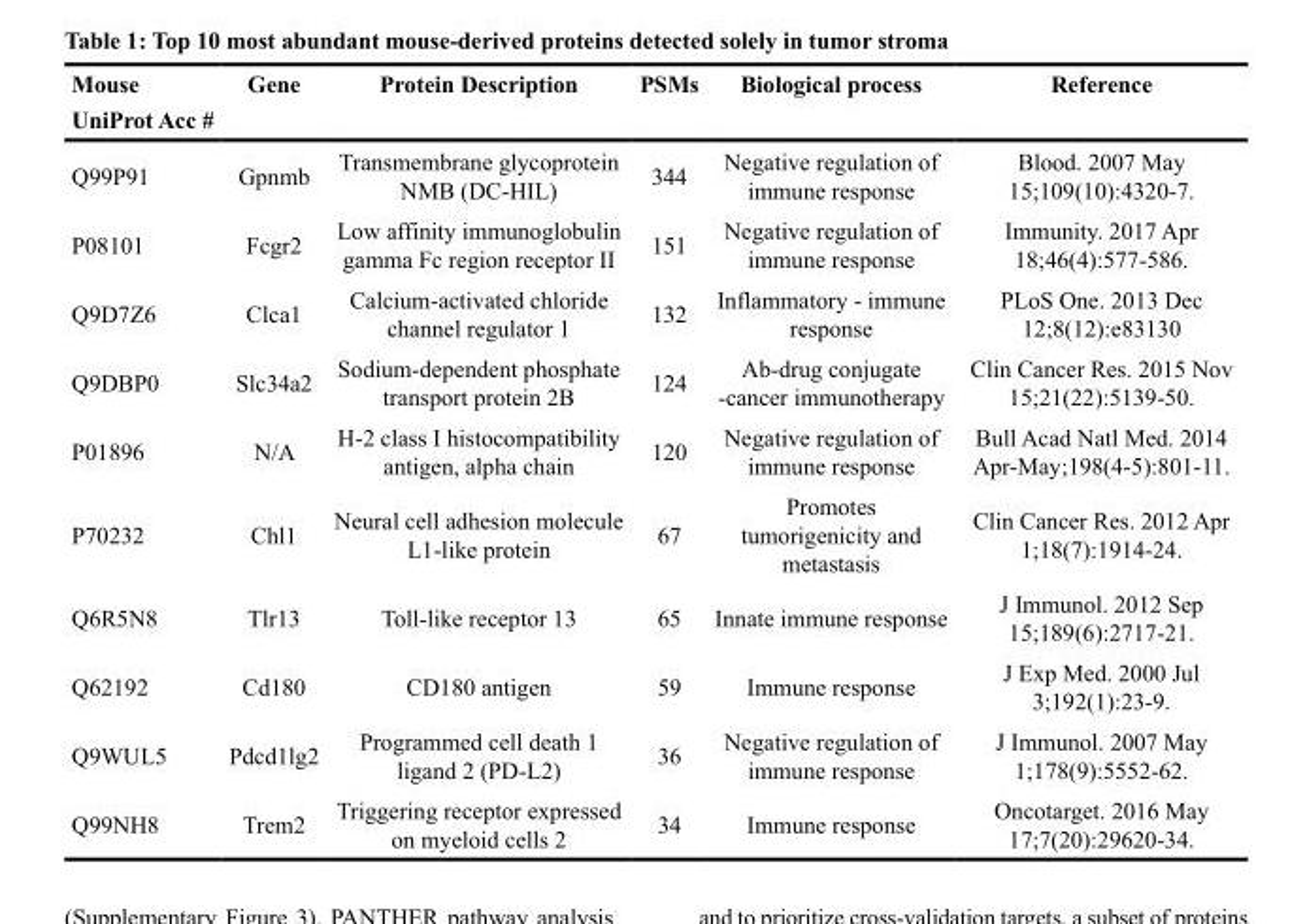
<table><thead><tr><td>Mouse UniProt Acc #</td><td>Gene</td><td>Protein Description</td><td>PSMs</td><td>Biological process</td><td>Reference</td></tr></thead><tbody><tr><td>Q99P91</td><td>Gpnmb</td><td>Transmembrane glycoprotein NMB (DC-HIL)</td><td>344</td><td>Negative regulation of immune response</td><td>Blood. 2007 May 15;109(10):4320-7.</td></tr><tr><td>P08101</td><td>Fcgr2</td><td>Low affinity immunoglobulin gamma Fc region receptor II</td><td>151</td><td>Negative regulation of immune response</td><td>Immunity. 2017 Apr 18;46(4):577-586.</td></tr><tr><td>Q9D7Z6</td><td>Clca1</td><td>Calcium-activated chloride channel regulator 1</td><td>132</td><td>Inflammatory - immune response</td><td>PLoS One. 2013 Dec 12;8(12):e83130</td></tr><tr><td>Q9DBP0</td><td>Slc34a2</td><td>Sodium-dependent phosphate transport protein 2B</td><td>124</td><td>Ab-drug conjugate -cancer immunotherapy</td><td>Clin Cancer Res. 2015 Nov 15;21(22):5139-50.</td></tr><tr><td>P01896</td><td>N/A</td><td>H-2 class I histocompatibility antigen, alpha chain</td><td>120</td><td>Negative regulation of immune response</td><td>Bull Acad Natl Med. 2014 Apr-May;198(4-5):801-11.</td></tr><tr><td>P70232</td><td>Chl1</td><td>Neural cell adhesion molecule L1-like protein</td><td>67</td><td>Promotes tumorigenicity and metastasis</td><td>Clin Cancer Res. 2012 Apr 1;18(7):1914-24.</td></tr><tr><td>Q6R5N8</td><td>Tlr13</td><td>Toll-like receptor 13</td><td>65</td><td>Innate immune response</td><td>J Immunol. 2012 Sep 15;189(6):2717-21.</td></tr><tr><td>Q62192</td><td>Cd180</td><td>CD180 antigen</td><td>59</td><td>Immune response</td><td>J Exp Med. 2000 Jul 3;192(1):23-9.</td></tr><tr><td>Q9WUL5</td><td>Pdcd1lg2</td><td>Programmed cell death 1 ligand 2 (PD-L2)</td><td>36</td><td>Negative regulation of immune response</td><td>J Immunol. 2007 May 1;178(9):5552-62.</td></tr><tr><td>Q99NH8</td><td>Trem2</td><td>Triggering receptor expressed on myeloid cells 2</td><td>34</td><td>Immune response</td><td>Oncotarget. 2016 May 17;7(20):29620-34.</td></tr></tbody></table>